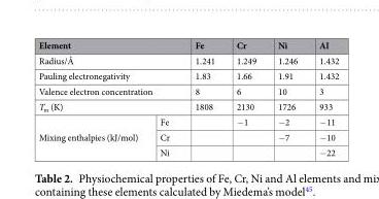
<table><thead><tr><td colspan="2">Element</td><td>Fe</td><td>Cr</td><td>Ni</td><td>Al</td></tr></thead><tbody><tr><td colspan="2">Radius/Å</td><td>1.241</td><td>1.249</td><td>1.246</td><td>1.432</td></tr><tr><td colspan="2">Pauling electronegativity</td><td>1.83</td><td>1.66</td><td>1.91</td><td>1.432</td></tr><tr><td colspan="2">Valence electron concentration</td><td>8</td><td>6</td><td>10</td><td>3</td></tr><tr><td colspan="2">T<sub>m</sub> (K)</td><td>1808</td><td>2130</td><td>1726</td><td>933</td></tr><tr><td rowspan="3">Mixing enthalpies (kJ/mol)</td><td>Fe</td><td></td><td>−1</td><td>−2</td><td>−11</td></tr><tr><td>Cr</td><td></td><td></td><td>−7</td><td>−10</td></tr><tr><td>Ni</td><td></td><td></td><td></td><td>−22</td></tr></tbody></table>